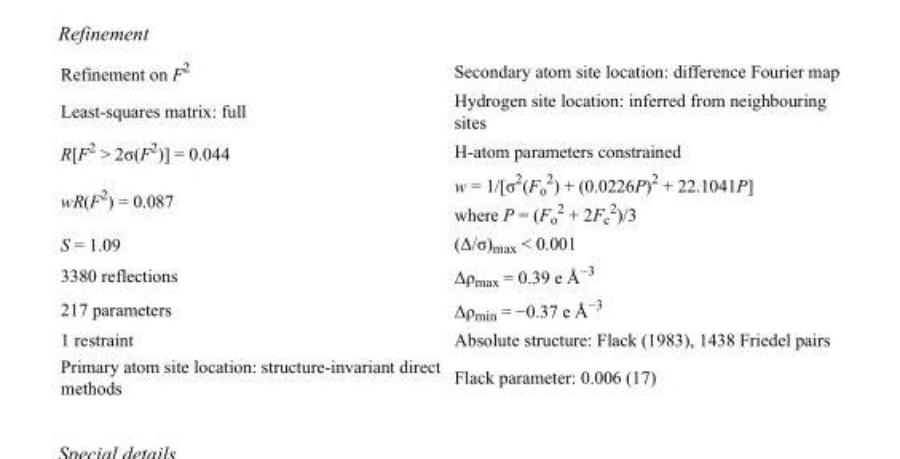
<table><tbody><tr><td>Refinement on F<sup>2</sup></td><td>Secondary atom site location: difference Fourier map</td></tr><tr><td>Least-squares matrix: full</td><td>Hydrogen site location: inferred from neighbouring sites</td></tr><tr><td>R[F<sup>2</sup> &gt; 2σ(F<sup>2</sup>)] = 0.044</td><td>H-atom parameters constrained</td></tr><tr><td>wR(F<sup>2</sup>) = 0.087</td><td>w = 1/[σ<sup>2</sup>(F<sub>o</sub> <sup>2</sup>) + (0.0226P)<sup>2</sup> + 22.1041P] where P = (F<sub>o</sub> <sup>2</sup> + 2F<sub>c</sub> <sup>2</sup>)/3</td></tr><tr><td>S = 1.09</td><td>(Δ/σ)<sub>max</sub> &lt; 0.001</td></tr><tr><td>3380 reflections</td><td>Δρ<sub>max</sub> = 0.39 e Å<sup>−3</sup></td></tr><tr><td>217 parameters</td><td>Δρ<sub>min</sub> = −0.37 e Å<sup>−3</sup></td></tr><tr><td>1 restraint</td><td>Absolute structure: Flack (1983), 1438 Friedel pairs</td></tr><tr><td>Primary atom site location: structure-invariant direct methods</td><td>Flack parameter: 0.006 (17)</td></tr></tbody></table>